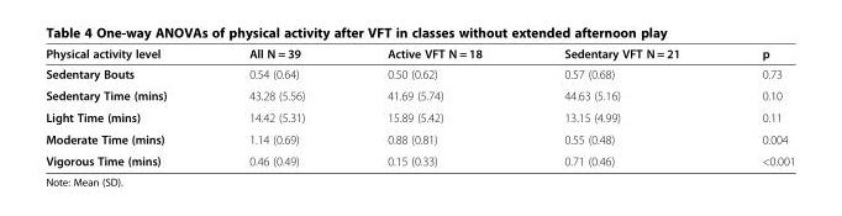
<table><thead><tr><td>Physical activity level</td><td>All N = 39</td><td>Active VFT N = 18</td><td>Sedentary VFT N = 21</td><td>p</td></tr></thead><tbody><tr><td>Sedentary Bouts</td><td>0.54 (0.64)</td><td>0.50 (0.62)</td><td>0.57 (0.68)</td><td>0.73</td></tr><tr><td>Sedentary Time (mins)</td><td>43.28 (5.56)</td><td>41.69 (5.74)</td><td>44.63 (5.16)</td><td>0.10</td></tr><tr><td>Light Time (mins)</td><td>14.42 (5.31)</td><td>15.89 (5.42)</td><td>13.15 (4.99)</td><td>0.11</td></tr><tr><td>Moderate Time (mins)</td><td>1.14 (0.69)</td><td>0.88 (0.81)</td><td>0.55 (0.48)</td><td>0.004</td></tr><tr><td>Vigorous Time (mins)</td><td>0.46 (0.49)</td><td>0.15 (0.33)</td><td>0.71 (0.46)</td><td>&lt;0.001</td></tr></tbody></table>